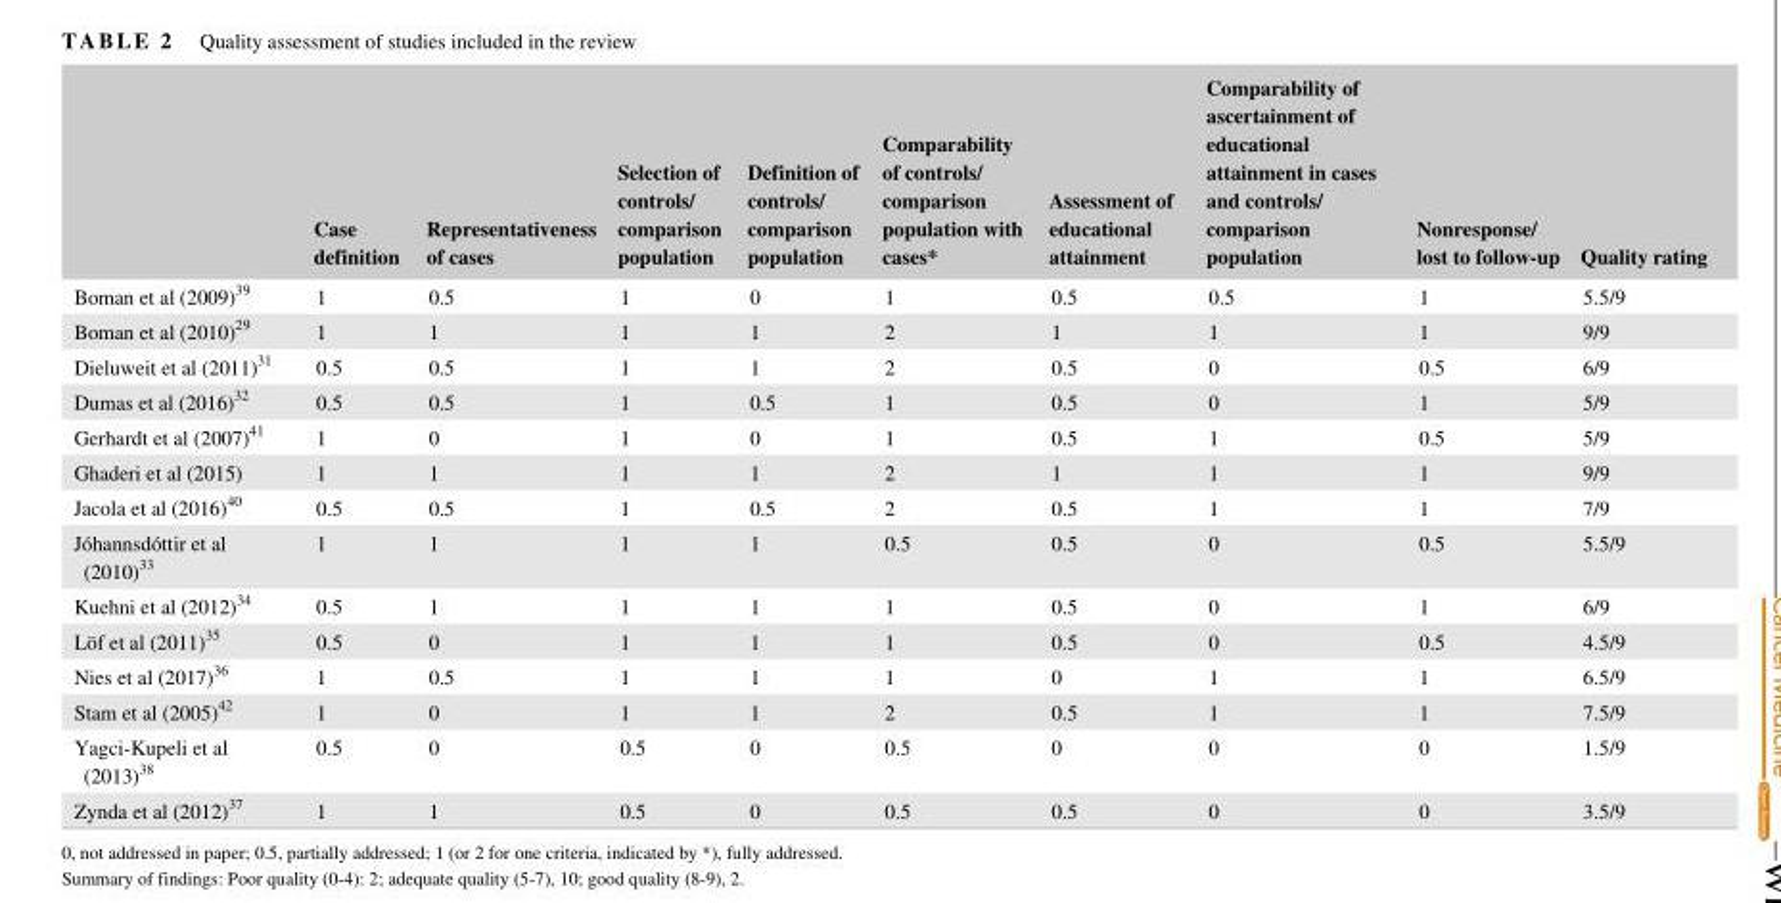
<table><thead><tr><td></td><td>Case definition</td><td>Representativeness of cases</td><td>Selection of controls/ comparison population</td><td>Definition of controls/ comparison population</td><td>Comparability of controls/ comparison population with cases*</td><td>Assessment of educational attainment</td><td>Comparability of ascertainment of educational attainment in cases and controls/ comparison population</td><td>Nonresponse/ lost to follow‐up</td><td>Quality rating</td></tr></thead><tbody><tr><td>Boman et al (2009)<sup>39</sup></td><td>1</td><td>0.5</td><td>1</td><td>0</td><td>1</td><td>0.5</td><td>0.5</td><td>1</td><td>5.5/9</td></tr><tr><td>Boman et al (2010)<sup>29</sup></td><td>1</td><td>1</td><td>1</td><td>1</td><td>2</td><td>1</td><td>1</td><td>1</td><td>9/9</td></tr><tr><td>Dieluweit et al (2011)<sup>31</sup></td><td>0.5</td><td>0.5</td><td>1</td><td>1</td><td>2</td><td>0.5</td><td>0</td><td>0.5</td><td>6/9</td></tr><tr><td>Dumas et al (2016)<sup>32</sup></td><td>0.5</td><td>0.5</td><td>1</td><td>0.5</td><td>1</td><td>0.5</td><td>0</td><td>1</td><td>5/9</td></tr><tr><td>Gerhardt et al (2007)<sup>41</sup></td><td>1</td><td>0</td><td>1</td><td>0</td><td>1</td><td>0.5</td><td>1</td><td>0.5</td><td>5/9</td></tr><tr><td>Ghaderi et al (2015)</td><td>1</td><td>1</td><td>1</td><td>1</td><td>2</td><td>1</td><td>1</td><td>1</td><td>9/9</td></tr><tr><td>Jacola et al (2016)<sup>40</sup></td><td>0.5</td><td>0.5</td><td>1</td><td>0.5</td><td>2</td><td>0.5</td><td>1</td><td>1</td><td>7/9</td></tr><tr><td>Jóhannsdóttir et al (2010)<sup>33</sup></td><td>1</td><td>1</td><td>1</td><td>1</td><td>0.5</td><td>0.5</td><td>0</td><td>0.5</td><td>5.5/9</td></tr><tr><td>Kuehni et al (2012)<sup>34</sup></td><td>0.5</td><td>1</td><td>1</td><td>1</td><td>1</td><td>0.5</td><td>0</td><td>1</td><td>6/9</td></tr><tr><td>Löf et al (2011)<sup>35</sup></td><td>0.5</td><td>0</td><td>1</td><td>1</td><td>1</td><td>0.5</td><td>0</td><td>0.5</td><td>4.5/9</td></tr><tr><td>Nies et al (2017)<sup>36</sup></td><td>1</td><td>0.5</td><td>1</td><td>1</td><td>1</td><td>0</td><td>1</td><td>1</td><td>6.5/9</td></tr><tr><td>Stam et al (2005)<sup>42</sup></td><td>1</td><td>0</td><td>1</td><td>1</td><td>2</td><td>0.5</td><td>1</td><td>1</td><td>7.5/9</td></tr><tr><td>Yagci‐Kupeli et al (2013)<sup>38</sup></td><td>0.5</td><td>0</td><td>0.5</td><td>0</td><td>0.5</td><td>0</td><td>0</td><td>0</td><td>1.5/9</td></tr><tr><td>Zynda et al (2012)<sup>37</sup></td><td>1</td><td>1</td><td>0.5</td><td>0</td><td>0.5</td><td>0.5</td><td>0</td><td>0</td><td>3.5/9</td></tr></tbody></table>